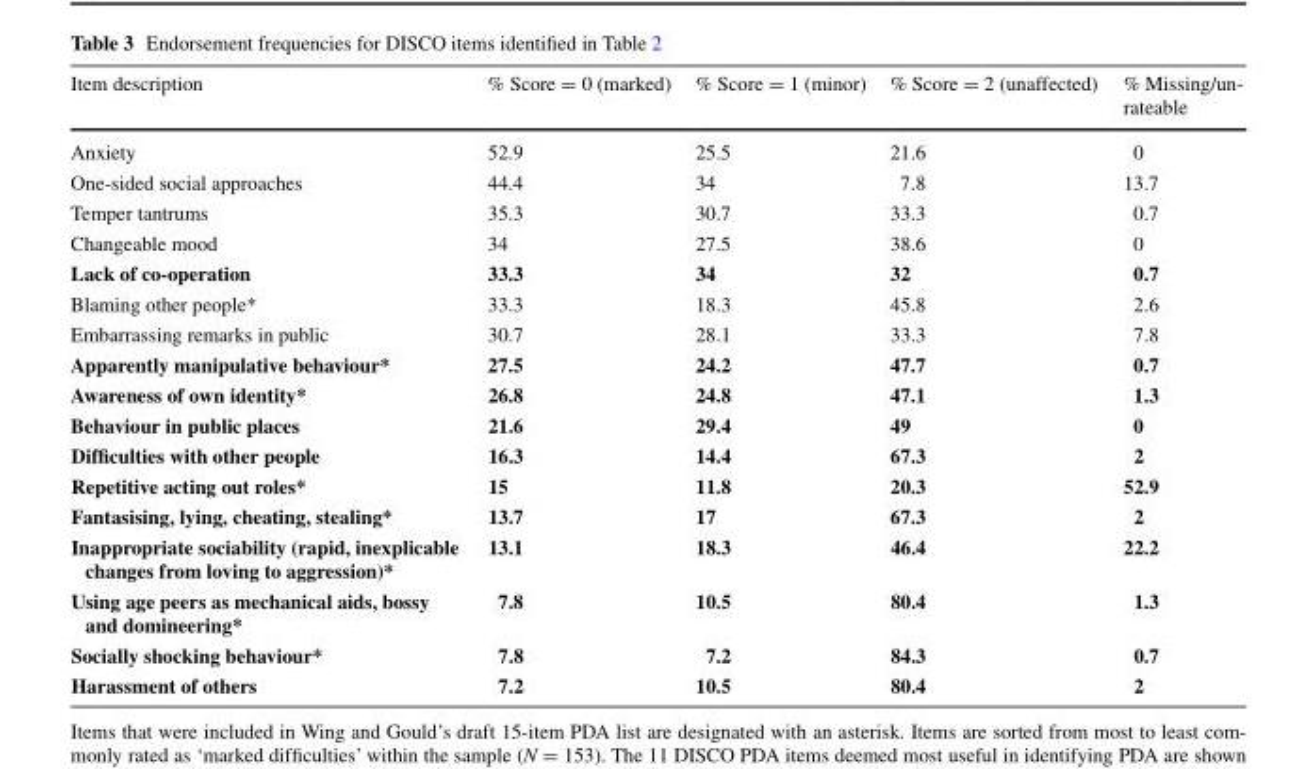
<table><thead><tr><td>Item description</td><td>% Score = 0 (marked)</td><td>% Score = 1 (minor)</td><td>% Score = 2 (unaffected)</td><td>% Missing/un- rateable</td></tr></thead><tbody><tr><td>Anxiety</td><td>52.9</td><td>25.5</td><td>21.6</td><td>0</td></tr><tr><td>One-sided social approaches</td><td>44.4</td><td>34</td><td>7.8</td><td>13.7</td></tr><tr><td>Temper tantrums</td><td>35.3</td><td>30.7</td><td>33.3</td><td>0.7</td></tr><tr><td>Changeable mood</td><td>34</td><td>27.5</td><td>38.6</td><td>0</td></tr><tr><td>Lack of co‑operation</td><td>33.3</td><td>34</td><td>32</td><td>0.7</td></tr><tr><td>Blaming other people*</td><td>33.3</td><td>18.3</td><td>45.8</td><td>2.6</td></tr><tr><td>Embarrassing remarks in public</td><td>30.7</td><td>28.1</td><td>33.3</td><td>7.8</td></tr><tr><td>Apparently manipulative behaviour*</td><td>27.5</td><td>24.2</td><td>47.7</td><td>0.7</td></tr><tr><td>Awareness of own identity*</td><td>26.8</td><td>24.8</td><td>47.1</td><td>1.3</td></tr><tr><td>Behaviour in public places</td><td>21.6</td><td>29.4</td><td>49</td><td>0</td></tr><tr><td>Difficulties with other people</td><td>16.3</td><td>14.4</td><td>67.3</td><td>2</td></tr><tr><td>Repetitive acting out roles*</td><td>15</td><td>11.8</td><td>20.3</td><td>52.9</td></tr><tr><td>Fantasising, lying, cheating, stealing*</td><td>13.7</td><td>17</td><td>67.3</td><td>2</td></tr><tr><td>Inappropriate sociability (rapid, inexplicable changes from loving to aggression)*</td><td>13.1</td><td>18.3</td><td>46.4</td><td>22.2</td></tr><tr><td>Using age peers as mechanical aids, bossy and domineering*</td><td>7.8</td><td>10.5</td><td>80.4</td><td>1.3</td></tr><tr><td>Socially shocking behaviour*</td><td>7.8</td><td>7.2</td><td>84.3</td><td>0.7</td></tr><tr><td>Harassment of others</td><td>7.2</td><td>10.5</td><td>80.4</td><td>2</td></tr></tbody></table>